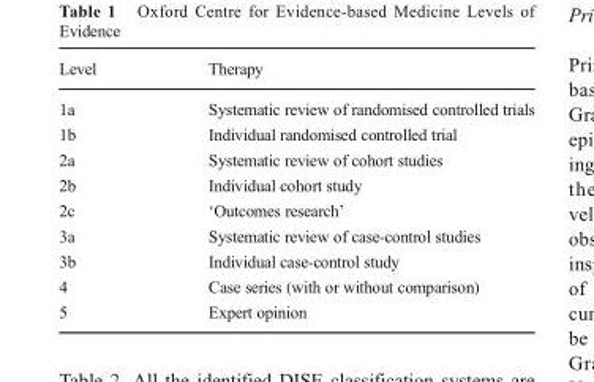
<table><thead><tr><td>Level</td><td>Therapy</td></tr></thead><tbody><tr><td>1a</td><td>Systematic review of randomised controlled trials</td></tr><tr><td>1b</td><td>Individual randomised controlled trial</td></tr><tr><td>2a</td><td>Systematic review of cohort studies</td></tr><tr><td>2b</td><td>Individual cohort study</td></tr><tr><td>2c</td><td>‘Outcomes research’</td></tr><tr><td>3a</td><td>Systematic review of case-control studies</td></tr><tr><td>3b</td><td>Individual case-control study</td></tr><tr><td>4</td><td>Case series (with or without comparison)</td></tr><tr><td>5</td><td>Expert opinion</td></tr></tbody></table>